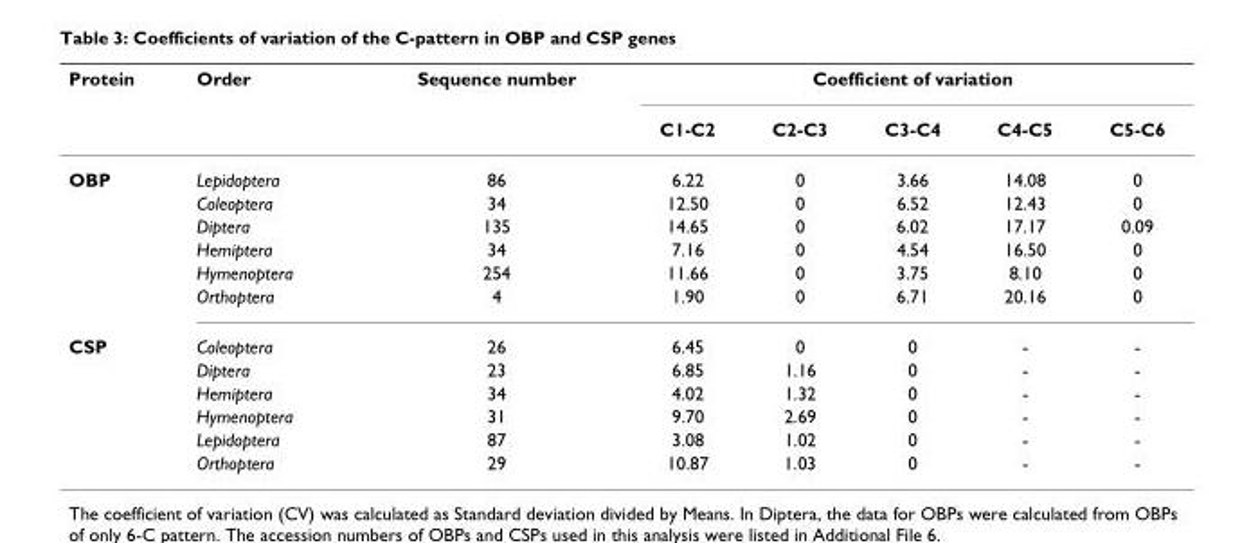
<table><thead><tr><td rowspan="2">Protein</td><td rowspan="2">Order</td><td rowspan="2">Sequence number</td><td colspan="5">Coefficient of variation</td></tr><tr><td>C1-C2</td><td>C2-C3</td><td>C3-C4</td><td>C4-C5</td><td>C5-C6</td></tr></thead><tbody><tr><td rowspan="6">OBP</td><td>Lepidoptera</td><td>86</td><td>6.22</td><td>0</td><td>3.66</td><td>14.08</td><td>0</td></tr><tr><td>Coleoptera</td><td>34</td><td>12.50</td><td>0</td><td>6.52</td><td>12.43</td><td>0</td></tr><tr><td>Diptera</td><td>135</td><td>14.65</td><td>0</td><td>6.02</td><td>17.17</td><td>0.09</td></tr><tr><td>Hemiptera</td><td>34</td><td>7.16</td><td>0</td><td>4.54</td><td>16.50</td><td>0</td></tr><tr><td>Hymenoptera</td><td>254</td><td>11.66</td><td>0</td><td>3.75</td><td>8.10</td><td>0</td></tr><tr><td>Orthoptera</td><td>4</td><td>1.90</td><td>0</td><td>6.71</td><td>20.16</td><td>0</td></tr><tr><td rowspan="6">CSP</td><td>Coleoptera</td><td>26</td><td>6.45</td><td>0</td><td>0</td><td>-</td><td>-</td></tr><tr><td>Diptera</td><td>23</td><td>6.85</td><td>1.16</td><td>0</td><td>-</td><td>-</td></tr><tr><td>Hemiptera</td><td>34</td><td>4.02</td><td>1.32</td><td>0</td><td>-</td><td>-</td></tr><tr><td>Hymenoptera</td><td>31</td><td>9.70</td><td>2.69</td><td>0</td><td>-</td><td>-</td></tr><tr><td>Lepidoptera</td><td>87</td><td>3.08</td><td>1.02</td><td>0</td><td>-</td><td>-</td></tr><tr><td>Orthoptera</td><td>29</td><td>10.87</td><td>1.03</td><td>0</td><td>-</td><td>-</td></tr></tbody></table>